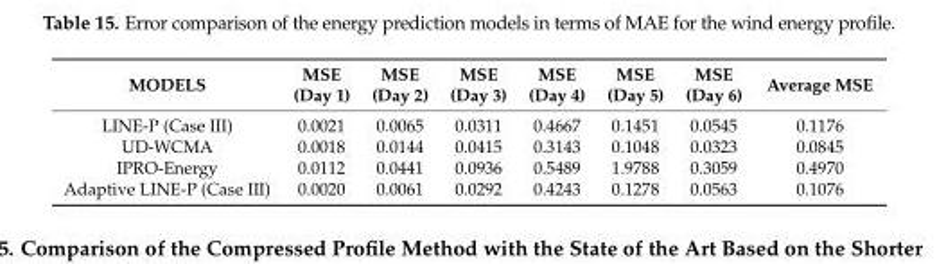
<table><thead><tr><td>MODELS</td><td>MSE (Day 1)</td><td>MSE (Day 2)</td><td>MSE (Day 3)</td><td>MSE (Day 4)</td><td>MSE (Day 5)</td><td>MSE (Day 6)</td><td>Average MSE</td></tr></thead><tbody><tr><td>LINE-P (Case III)</td><td>0.0021</td><td>0.0065</td><td>0.0311</td><td>0.4667</td><td>0.1451</td><td>0.0545</td><td>0.1176</td></tr><tr><td>UD-WCMA</td><td>0.0018</td><td>0.0144</td><td>0.0415</td><td>0.3143</td><td>0.1048</td><td>0.0323</td><td>0.0845</td></tr><tr><td>IPRO-Energy</td><td>0.0112</td><td>0.0441</td><td>0.0936</td><td>0.5489</td><td>1.9788</td><td>0.3059</td><td>0.4970</td></tr><tr><td>Adaptive LINE-P (Case III)</td><td>0.0020</td><td>0.0061</td><td>0.0292</td><td>0.4243</td><td>0.1278</td><td>0.0563</td><td>0.1076</td></tr></tbody></table>